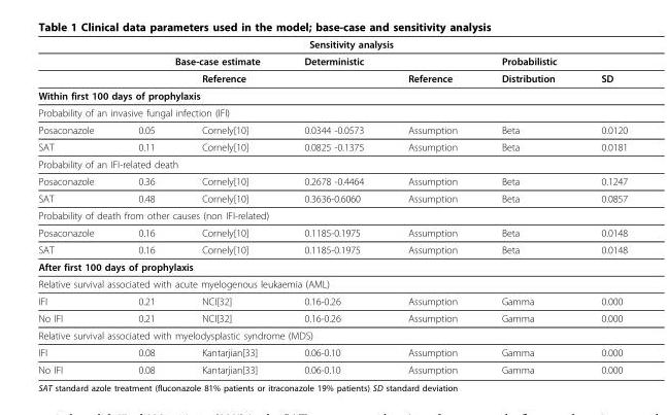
<table><thead><tr><td colspan="7">Sensitivity analysis</td></tr><tr><td rowspan="2"></td><td colspan="2">Base-case estimate</td><td rowspan="2">Deterministic</td><td rowspan="2">Reference</td><td rowspan="2">Probabilistic Distribution</td><td rowspan="2">SD</td></tr><tr><td></td><td>Reference</td></tr></thead><tbody><tr><td colspan="7">Within first 100 days of prophylaxis</td></tr><tr><td colspan="7">Probability of an invasive fungal infection (IFI)</td></tr><tr><td>Posaconazole</td><td>0.05</td><td>Cornely[10]</td><td>0.0344 -0.0573</td><td>Assumption</td><td>Beta</td><td>0.0120</td></tr><tr><td>SAT</td><td>0.11</td><td>Cornely[10]</td><td>0.0825 -0.1375</td><td>Assumption</td><td>Beta</td><td>0.0181</td></tr><tr><td colspan="7">Probability of an IFI-related death</td></tr><tr><td>Posaconazole</td><td>0.36</td><td>Cornely[10]</td><td>0.2678 -0.4464</td><td>Assumption</td><td>Beta</td><td>0.1247</td></tr><tr><td>SAT</td><td>0.48</td><td>Cornely[10]</td><td>0.3636-0.6060</td><td>Assumption</td><td>Beta</td><td>0.0857</td></tr><tr><td colspan="7">Probability of death from other causes (non IFI-related)</td></tr><tr><td>Posaconazole</td><td>0.16</td><td>Cornely[10]</td><td>0.1185-0.1975</td><td>Assumption</td><td>Beta</td><td>0.0148</td></tr><tr><td>SAT</td><td>0.16</td><td>Cornely[10]</td><td>0.1185-0.1975</td><td>Assumption</td><td>Beta</td><td>0.0148</td></tr><tr><td colspan="7">After first 100 days of prophylaxis</td></tr><tr><td colspan="7">Relative survival associated with acute myelogenous leukaemia (AML)</td></tr><tr><td>IFI</td><td>0.21</td><td>NCI[32]</td><td>0.16-0.26</td><td>Assumption</td><td>Gamma</td><td>0.000</td></tr><tr><td>No IFI</td><td>0.21</td><td>NCI[32]</td><td>0.16-0.26</td><td>Assumption</td><td>Gamma</td><td>0.000</td></tr><tr><td colspan="7">Relative survival associated with myelodysplastic syndrome (MDS)</td></tr><tr><td>IFI</td><td>0.08</td><td>Kantarjian[33]</td><td>0.06-0.10</td><td>Assumption</td><td>Gamma</td><td>0.000</td></tr><tr><td>No IFI</td><td>0.08</td><td>Kantarjian[33]</td><td>0.06-0.10</td><td>Assumption</td><td>Gamma</td><td>0.000</td></tr></tbody></table>